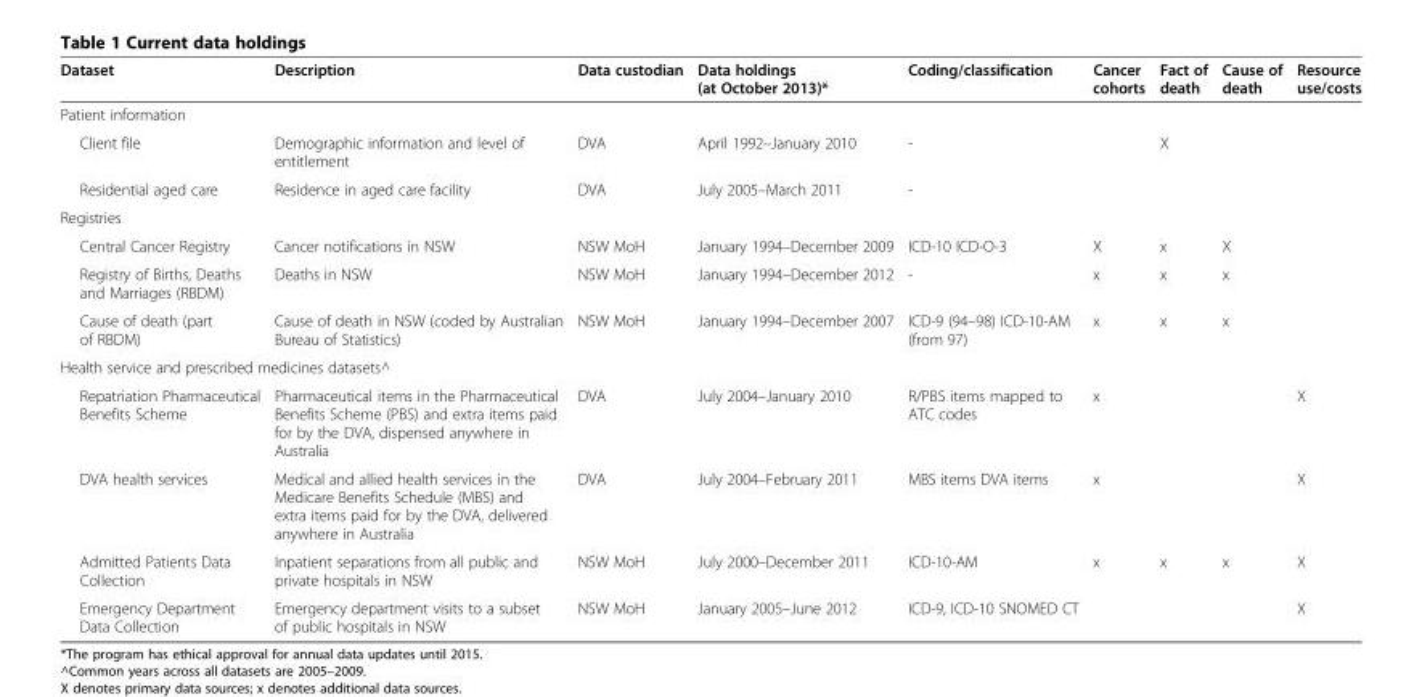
<table><thead><tr><td>Dataset</td><td>Description</td><td>Data custodian</td><td>Data holdings (at October 2013)*</td><td>Coding/classification</td><td>Cancer cohorts</td><td>Fact of death</td><td>Cause of death</td><td>Resource use/costs</td></tr></thead><tbody><tr><td colspan="9">Patient information</td></tr><tr><td>Client file</td><td>Demographic information and level of entitlement</td><td>DVA</td><td>April 1992–January 2010</td><td>-</td><td></td><td>X</td><td></td><td></td></tr><tr><td>Residential aged care</td><td>Residence in aged care facility</td><td>DVA</td><td>July 2005–March 2011</td><td>-</td><td></td><td></td><td></td><td></td></tr><tr><td colspan="9">Registries</td></tr><tr><td>Central Cancer Registry</td><td>Cancer notifications in NSW</td><td>NSW MoH</td><td>January 1994–December 2009</td><td>ICD-10 ICD-O-3</td><td>X</td><td>x</td><td>X</td><td></td></tr><tr><td>Registry of Births, Deaths and Marriages (RBDM)</td><td>Deaths in NSW</td><td>NSW MoH</td><td>January 1994–December 2012</td><td>-</td><td>x</td><td>x</td><td>x</td><td></td></tr><tr><td>Cause of death (part of RBDM)</td><td>Cause of death in NSW (coded by Australian Bureau of Statistics)</td><td>NSW MoH</td><td>January 1994–December 2007</td><td>ICD-9 (94–98) ICD-10-AM (from 97)</td><td>x</td><td>x</td><td>x</td><td></td></tr><tr><td colspan="9">Health service and prescribed medicines datasets^</td></tr><tr><td>Repatriation Pharmaceutical Benefits Scheme</td><td>Pharmaceutical items in the Pharmaceutical Benefits Scheme (PBS) and extra items paid for by the DVA, dispensed anywhere in Australia</td><td>DVA</td><td>July 2004–January 2010</td><td>R/PBS items mapped to ATC codes</td><td>x</td><td></td><td></td><td>X</td></tr><tr><td>DVA health services</td><td>Medical and allied health services in the Medicare Benefits Schedule (MBS) and extra items paid for by the DVA, delivered anywhere in Australia</td><td>DVA</td><td>July 2004–February 2011</td><td>MBS items DVA items</td><td>x</td><td></td><td></td><td>X</td></tr><tr><td>Admitted Patients Data Collection</td><td>Inpatient separations from all public and private hospitals in NSW</td><td>NSW MoH</td><td>July 2000–December 2011</td><td>ICD-10-AM</td><td>x</td><td>x</td><td>x</td><td>X</td></tr><tr><td>Emergency Department Data Collection</td><td>Emergency department visits to a subset of public hospitals in NSW</td><td>NSW MoH</td><td>January 2005–June 2012</td><td>ICD-9, ICD-10 SNOMED CT</td><td></td><td></td><td></td><td>X</td></tr></tbody></table>